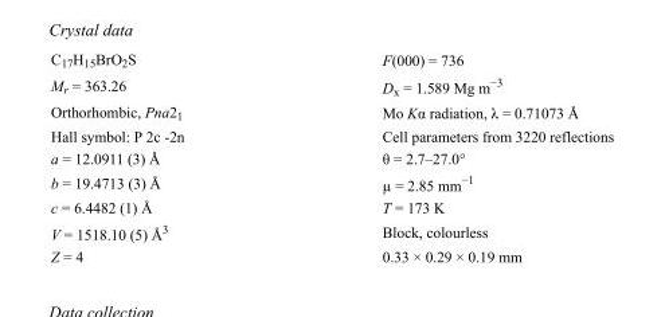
<table><tbody><tr><td>C<sub>17</sub>H<sub>15</sub>BrO<sub>2</sub>S</td><td>F(000) = 736</td></tr><tr><td>M<sub>r</sub> = 363.26</td><td>D<sub>x</sub> = 1.589 Mg m<sup>−3</sup></td></tr><tr><td>Orthorhombic, Pna2<sub>1</sub></td><td>Mo Kα radiation, λ = 0.71073 Å</td></tr><tr><td>Hall symbol: P 2c -2n</td><td>Cell parameters from 3220 reflections</td></tr><tr><td>a = 12.0911 (3) Å</td><td>θ = 2.7–27.0°</td></tr><tr><td>b = 19.4713 (3) Å</td><td>µ = 2.85 mm<sup>−1</sup></td></tr><tr><td>c = 6.4482 (1) Å</td><td>T = 173 K</td></tr><tr><td>V = 1518.10 (5) Å<sup>3</sup></td><td>Block, colourless</td></tr><tr><td>Z = 4</td><td>0.33 × 0.29 × 0.19 mm</td></tr></tbody></table>